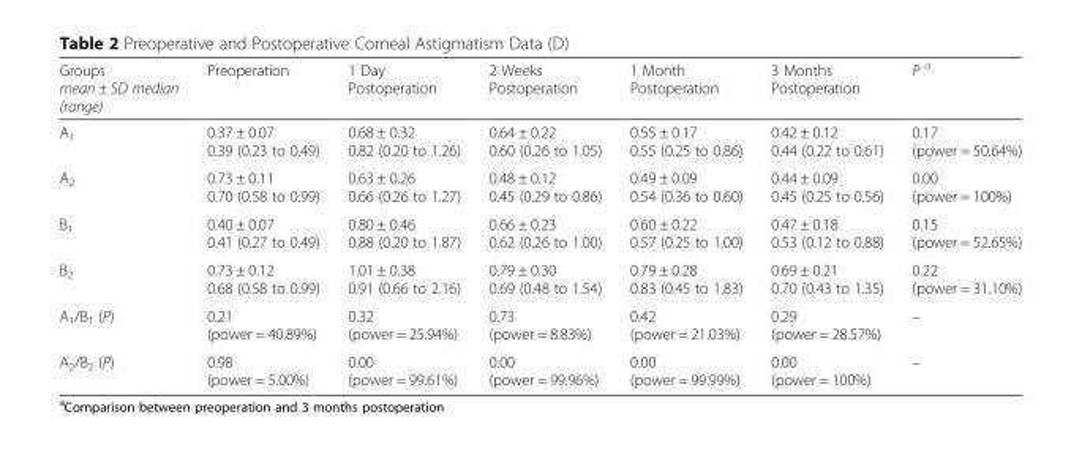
<table><thead><tr><td>Groups mean ± SD median (range)</td><td>Preoperation</td><td>1 Day Postoperation</td><td>2 Weeks Postoperation</td><td>1 Month Postoperation</td><td>3 Months Postoperation</td><td>P <sup>a</sup></td></tr></thead><tbody><tr><td>A<sub>1</sub></td><td>0.37 ± 0.07 0.39 (0.23 to 0.49)</td><td>0.68 ± 0.32 0.82 (0.20 to 1.26)</td><td>0.64 ± 0.22 0.60 (0.26 to 1.05)</td><td>0.55 ± 0.17 0.55 (0.25 to 0.86)</td><td>0.42 ± 0.12 0.44 (0.22 to 0.61)</td><td>0.17 (power = 50.64%)</td></tr><tr><td>A<sub>2</sub></td><td>0.73 ± 0.11 0.70 (0.58 to 0.99)</td><td>0.63 ± 0.26 0.66 (0.26 to 1.27)</td><td>0.48 ± 0.12 0.45 (0.29 to 0.86)</td><td>0.49 ± 0.09 0.54 (0.36 to 0.60)</td><td>0.44 ± 0.09 0.45 (0.25 to 0.56)</td><td>0.00 (power = 100%)</td></tr><tr><td>B<sub>1</sub></td><td>0.40 ± 0.07 0.41 (0.27 to 0.49)</td><td>0.80 ± 0.46 0.88 (0.20 to 1.87)</td><td>0.66 ± 0.23 0.62 (0.26 to 1.00)</td><td>0.60 ± 0.22 0.57 (0.25 to 1.00)</td><td>0.47 ± 0.18 0.53 (0.12 to 0.88)</td><td>0.15 (power = 52.65%)</td></tr><tr><td>B<sub>2</sub></td><td>0.73 ± 0.12 0.68 (0.58 to 0.99)</td><td>1.01 ± 0.38 0.91 (0.66 to 2.16)</td><td>0.79 ± 0.30 0.69 (0.48 to 1.54)</td><td>0.79 ± 0.28 0.83 (0.45 to 1.83)</td><td>0.69 ± 0.21 0.70 (0.43 to 1.35)</td><td>0.22 (power = 31.10%)</td></tr><tr><td>A<sub>1</sub>/B<sub>1</sub> (P)</td><td>0.21 (power = 40.89%)</td><td>0.32 (power = 25.94%)</td><td>0.73 (power = 8.83%)</td><td>0.42 (power = 21.03%)</td><td>0.29 (power = 28.57%)</td><td>–</td></tr><tr><td>A<sub>2</sub>/B<sub>2</sub> (P)</td><td>0.98 (power = 5.00%)</td><td>0.00 (power = 99.61%)</td><td>0.00 (power = 99.96%)</td><td>0.00 (power = 99.99%)</td><td>0.00 (power = 100%)</td><td>–</td></tr></tbody></table>